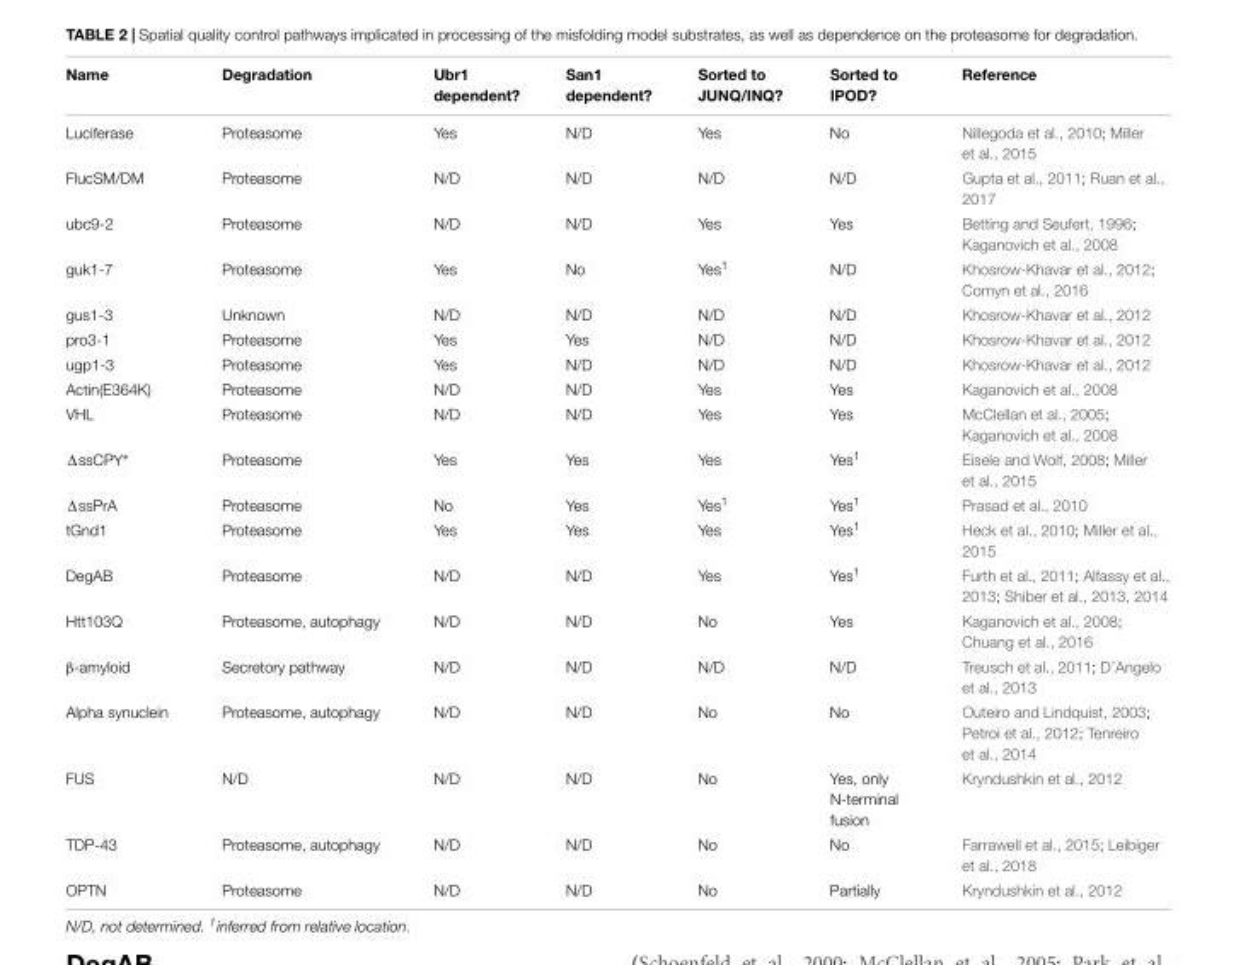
<table><thead><tr><td>Name</td><td>Degradation</td><td>Ubr1 dependent?</td><td>San1 dependent?</td><td>Sorted to JUNQ/INQ?</td><td>Sorted to IPOD?</td><td>Reference</td></tr></thead><tbody><tr><td>Luciferase</td><td>Proteasome</td><td>Yes</td><td>N/D</td><td>Yes</td><td>No</td><td>Nillegoda et al., 2010; Miller et al., 2015</td></tr><tr><td>FlucSM/DM</td><td>Proteasome</td><td>N/D</td><td>N/D</td><td>N/D</td><td>N/D</td><td>Gupta et al., 2011; Ruan et al., 2017</td></tr><tr><td>ubc9-2</td><td>Proteasome</td><td>N/D</td><td>N/D</td><td>Yes</td><td>Yes</td><td>Betting and Seufert, 1996; Kaganovich et al., 2008</td></tr><tr><td>guk1-7</td><td>Proteasome</td><td>Yes</td><td>No</td><td>Yes<sup>1</sup></td><td>N/D</td><td>Khosrow-Khavar et al., 2012; Comyn et al., 2016</td></tr><tr><td>gus1-3</td><td>Unknown</td><td>N/D</td><td>N/D</td><td>N/D</td><td>N/D</td><td>Khosrow-Khavar et al., 2012</td></tr><tr><td>pro3-1</td><td>Proteasome</td><td>Yes</td><td>Yes</td><td>N/D</td><td>N/D</td><td>Khosrow-Khavar et al., 2012</td></tr><tr><td>ugp1-3</td><td>Proteasome</td><td>Yes</td><td>N/D</td><td>N/D</td><td>N/D</td><td>Khosrow-Khavar et al., 2012</td></tr><tr><td>Actin(E364K)</td><td>Proteasome</td><td>N/D</td><td>N/D</td><td>Yes</td><td>Yes</td><td>Kaganovich et al., 2008</td></tr><tr><td>VHL</td><td>Proteasome</td><td>N/D</td><td>N/D</td><td>Yes</td><td>Yes</td><td>McClellan et al., 2005; Kaganovich et al., 2008</td></tr><tr><td>ΔssCPY∗</td><td>Proteasome</td><td>Yes</td><td>Yes</td><td>Yes</td><td>Yes<sup>1</sup></td><td>Eisele and Wolf, 2008; Miller et al., 2015</td></tr><tr><td>ΔssPrA</td><td>Proteasome</td><td>No</td><td>Yes</td><td>Yes<sup>1</sup></td><td>Yes<sup>1</sup></td><td>Prasad et al., 2010</td></tr><tr><td>tGnd1</td><td>Proteasome</td><td>Yes</td><td>Yes</td><td>Yes</td><td>Yes<sup>1</sup></td><td>Heck et al., 2010; Miller et al., 2015</td></tr><tr><td>DegAB</td><td>Proteasome</td><td>N/D</td><td>N/D</td><td>Yes</td><td>Yes<sup>1</sup></td><td>Furth et al., 2011; Alfassy et al., 2013; Shiber et al., 2013, 2014</td></tr><tr><td>Htt103Q</td><td>Proteasome, autophagy</td><td>N/D</td><td>N/D</td><td>No</td><td>Yes</td><td>Kaganovich et al., 2008; Chuang et al., 2016</td></tr><tr><td>β-amyloid</td><td>Secretory pathway</td><td>N/D</td><td>N/D</td><td>N/D</td><td>N/D</td><td>Treusch et al., 2011; D’Angelo et al., 2013</td></tr><tr><td>Alpha synuclein</td><td>Proteasome, autophagy</td><td>N/D</td><td>N/D</td><td>No</td><td>No</td><td>Outeiro and Lindquist, 2003; Petroi et al., 2012; Tenreiro et al., 2014</td></tr><tr><td>FUS</td><td>N/D</td><td>N/D</td><td>N/D</td><td>No</td><td>Yes, only N-terminal fusion</td><td>Kryndushkin et al., 2012</td></tr><tr><td>TDP-43</td><td>Proteasome, autophagy</td><td>N/D</td><td>N/D</td><td>No</td><td>No</td><td>Farrawell et al., 2015; Leibiger et al., 2018</td></tr><tr><td>OPTN</td><td>Proteasome</td><td>N/D</td><td>N/D</td><td>No</td><td>Partially</td><td>Kryndushkin et al., 2012</td></tr></tbody></table>